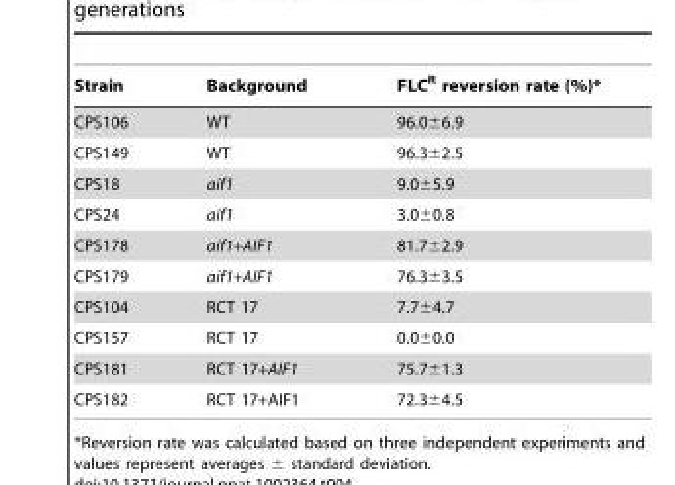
<table><thead><tr><td>Strain</td><td>Background</td><td>FLC<sup>R</sup> reversion rate (%)*</td></tr></thead><tbody><tr><td>CPS106</td><td>WT</td><td>96.0±6.9</td></tr><tr><td>CPS149</td><td>WT</td><td>96.3±2.5</td></tr><tr><td>CPS18</td><td>aif1</td><td>9.0±5.9</td></tr><tr><td>CPS24</td><td>aif1</td><td>3.0±0.8</td></tr><tr><td>CPS178</td><td>aif1+AIF1</td><td>81.7±2.9</td></tr><tr><td>CPS179</td><td>aif1+AIF1</td><td>76.3±3.5</td></tr><tr><td>CPS104</td><td>RCT 17</td><td>7.7±4.7</td></tr><tr><td>CPS157</td><td>RCT 17</td><td>0.0±0.0</td></tr><tr><td>CPS181</td><td>RCT 17+AIF1</td><td>75.7±1.3</td></tr><tr><td>CPS182</td><td>RCT 17+AIF1</td><td>72.3±4.5</td></tr></tbody></table>